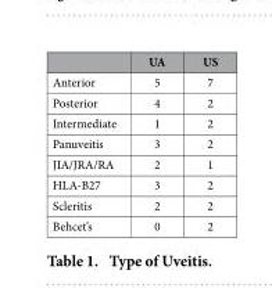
<table><thead><tr><td></td><td>UA</td><td>US</td></tr></thead><tbody><tr><td>Anterior</td><td>5</td><td>7</td></tr><tr><td>Posterior</td><td>4</td><td>2</td></tr><tr><td>Intermediate</td><td>1</td><td>2</td></tr><tr><td>Panuveitis</td><td>3</td><td>2</td></tr><tr><td>JIA/JRA/RA</td><td>2</td><td>1</td></tr><tr><td>HLA-B27</td><td>3</td><td>2</td></tr><tr><td>Scleritis</td><td>2</td><td>2</td></tr><tr><td>Behcet’s</td><td>0</td><td>2</td></tr></tbody></table>